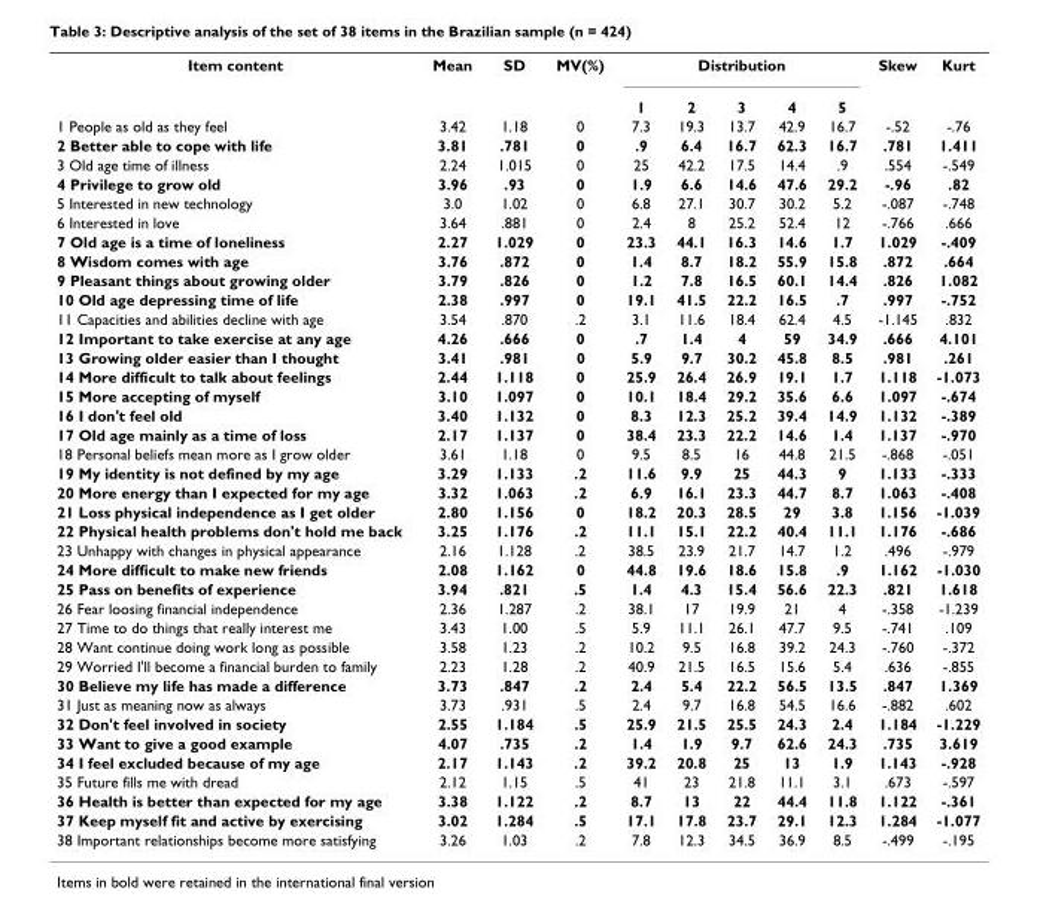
<table><tbody><tr><td rowspan="2">Item content</td><td>Mean</td><td>SD</td><td>MV(%)</td><td colspan="5">Distribution</td><td>Skew</td><td>Kurt</td></tr><tr><td></td><td></td><td></td><td>1</td><td>2</td><td>3</td><td>4</td><td>5</td><td></td><td></td></tr><tr><td>1 People as old as they feel</td><td>3.42</td><td>1.18</td><td>0</td><td>7.3</td><td>19.3</td><td>13.7</td><td>42.9</td><td>16.7</td><td>-.52</td><td>-.76</td></tr><tr><td>2 Better able to cope with life</td><td>3.81</td><td>.781</td><td>0</td><td>.9</td><td>6.4</td><td>16.7</td><td>62.3</td><td>16.7</td><td>.781</td><td>1.411</td></tr><tr><td>3 Old age time of illness</td><td>2.24</td><td>1.015</td><td>0</td><td>25</td><td>42.2</td><td>17.5</td><td>14.4</td><td>.9</td><td>.554</td><td>-.549</td></tr><tr><td>4 Privilege to grow old</td><td>3.96</td><td>.93</td><td>0</td><td>1.9</td><td>6.6</td><td>14.6</td><td>47.6</td><td>29.2</td><td>-.96</td><td>.82</td></tr><tr><td>5 Interested in new technology</td><td>3.0</td><td>1.02</td><td>0</td><td>6.8</td><td>27.1</td><td>30.7</td><td>30.2</td><td>5.2</td><td>-.087</td><td>-.748</td></tr><tr><td>6 Interested in love</td><td>3.64</td><td>.881</td><td>0</td><td>2.4</td><td>8</td><td>25.2</td><td>52.4</td><td>12</td><td>-.766</td><td>.666</td></tr><tr><td>7 Old age is a time of loneliness</td><td>2.27</td><td>1.029</td><td>0</td><td>23.3</td><td>44.1</td><td>16.3</td><td>14.6</td><td>1.7</td><td>1.029</td><td>-.409</td></tr><tr><td>8 Wisdom comes with age</td><td>3.76</td><td>.872</td><td>0</td><td>1.4</td><td>8.7</td><td>18.2</td><td>55.9</td><td>15.8</td><td>.872</td><td>.664</td></tr><tr><td>9 Pleasant things about growing older</td><td>3.79</td><td>.826</td><td>0</td><td>1.2</td><td>7.8</td><td>16.5</td><td>60.1</td><td>14.4</td><td>.826</td><td>1.082</td></tr><tr><td>10 Old age depressing time of life</td><td>2.38</td><td>.997</td><td>0</td><td>19.1</td><td>41.5</td><td>22.2</td><td>16.5</td><td>.7</td><td>.997</td><td>-.752</td></tr><tr><td>11 Capacities and abilities decline with age</td><td>3.54</td><td>.870</td><td>.2</td><td>3.1</td><td>11.6</td><td>18.4</td><td>62.4</td><td>4.5</td><td>-1.145</td><td>.832</td></tr><tr><td>12 Important to take exercise at any age</td><td>4.26</td><td>.666</td><td>0</td><td>.7</td><td>1.4</td><td>4</td><td>59</td><td>34.9</td><td>.666</td><td>4.101</td></tr><tr><td>13 Growing older easier than I thought</td><td>3.41</td><td>.981</td><td>0</td><td>5.9</td><td>9.7</td><td>30.2</td><td>45.8</td><td>8.5</td><td>.981</td><td>.261</td></tr><tr><td>14 More difficult to talk about feelings</td><td>2.44</td><td>1.118</td><td>0</td><td>25.9</td><td>26.4</td><td>26.9</td><td>19.1</td><td>1.7</td><td>1.118</td><td>-1.073</td></tr><tr><td>15 More accepting of myself</td><td>3.10</td><td>1.097</td><td>0</td><td>10.1</td><td>18.4</td><td>29.2</td><td>35.6</td><td>6.6</td><td>1.097</td><td>-.674</td></tr><tr><td>16 I don&#x27;t feel old</td><td>3.40</td><td>1.132</td><td>0</td><td>8.3</td><td>12.3</td><td>25.2</td><td>39.4</td><td>14.9</td><td>1.132</td><td>-.389</td></tr><tr><td>17 Old age mainly as a time of loss</td><td>2.17</td><td>1.137</td><td>0</td><td>38.4</td><td>23.3</td><td>22.2</td><td>14.6</td><td>1.4</td><td>1.137</td><td>-.970</td></tr><tr><td>18 Personal beliefs mean more as I grow older</td><td>3.61</td><td>1.18</td><td>0</td><td>9.5</td><td>8.5</td><td>16</td><td>44.8</td><td>21.5</td><td>-.868</td><td>-.051</td></tr><tr><td>19 My identity is not defined by my age</td><td>3.29</td><td>1.133</td><td>.2</td><td>11.6</td><td>9.9</td><td>25</td><td>44.3</td><td>9</td><td>1.133</td><td>-.333</td></tr><tr><td>20 More energy than I expected for my age</td><td>3.32</td><td>1.063</td><td>.2</td><td>6.9</td><td>16.1</td><td>23.3</td><td>44.7</td><td>8.7</td><td>1.063</td><td>-.408</td></tr><tr><td>21 Loss physical independence as I get older</td><td>2.80</td><td>1.156</td><td>0</td><td>18.2</td><td>20.3</td><td>28.5</td><td>29</td><td>3.8</td><td>1.156</td><td>-1.039</td></tr><tr><td>22 Physical health problems don&#x27;t hold me back</td><td>3.25</td><td>1.176</td><td>.2</td><td>11.1</td><td>15.1</td><td>22.2</td><td>40.4</td><td>11.1</td><td>1.176</td><td>-.686</td></tr><tr><td>23 Unhappy with changes in physical appearance</td><td>2.16</td><td>1.128</td><td>.2</td><td>38.5</td><td>23.9</td><td>21.7</td><td>14.7</td><td>1.2</td><td>.496</td><td>-.979</td></tr><tr><td>24 More difficult to make new friends</td><td>2.08</td><td>1.162</td><td>0</td><td>44.8</td><td>19.6</td><td>18.6</td><td>15.8</td><td>.9</td><td>1.162</td><td>-1.030</td></tr><tr><td>25 Pass on benefits of experience</td><td>3.94</td><td>.821</td><td>.5</td><td>1.4</td><td>4.3</td><td>15.4</td><td>56.6</td><td>22.3</td><td>.821</td><td>1.618</td></tr><tr><td>26 Fear loosing financial independence</td><td>2.36</td><td>1.287</td><td>.2</td><td>38.1</td><td>17</td><td>19.9</td><td>21</td><td>4</td><td>-.358</td><td>-1.239</td></tr><tr><td>27 Time to do things that really interest me</td><td>3.43</td><td>1.00</td><td>.5</td><td>5.9</td><td>11.1</td><td>26.1</td><td>47.7</td><td>9.5</td><td>-.741</td><td>.109</td></tr><tr><td>28 Want continue doing work long as possible</td><td>3.58</td><td>1.23</td><td>.2</td><td>10.2</td><td>9.5</td><td>16.8</td><td>39.2</td><td>24.3</td><td>-.760</td><td>-.372</td></tr><tr><td>29 Worried I&#x27;ll become a financial burden to family</td><td>2.23</td><td>1.28</td><td>.2</td><td>40.9</td><td>21.5</td><td>16.5</td><td>15.6</td><td>5.4</td><td>.636</td><td>-.855</td></tr><tr><td>30 Believe my life has made a difference</td><td>3.73</td><td>.847</td><td>.2</td><td>2.4</td><td>5.4</td><td>22.2</td><td>56.5</td><td>13.5</td><td>.847</td><td>1.369</td></tr><tr><td>31 Just as meaning now as always</td><td>3.73</td><td>.931</td><td>.5</td><td>2.4</td><td>9.7</td><td>16.8</td><td>54.5</td><td>16.6</td><td>-.882</td><td>.602</td></tr><tr><td>32 Don&#x27;t feel involved in society</td><td>2.55</td><td>1.184</td><td>.5</td><td>25.9</td><td>21.5</td><td>25.5</td><td>24.3</td><td>2.4</td><td>1.184</td><td>-1.229</td></tr><tr><td>33 Want to give a good example</td><td>4.07</td><td>.735</td><td>.2</td><td>1.4</td><td>1.9</td><td>9.7</td><td>62.6</td><td>24.3</td><td>.735</td><td>3.619</td></tr><tr><td>34 I feel excluded because of my age</td><td>2.17</td><td>1.143</td><td>.2</td><td>39.2</td><td>20.8</td><td>25</td><td>13</td><td>1.9</td><td>1.143</td><td>-.928</td></tr><tr><td>35 Future fills me with dread</td><td>2.12</td><td>1.15</td><td>.5</td><td>41</td><td>23</td><td>21.8</td><td>11.1</td><td>3.1</td><td>.673</td><td>-.597</td></tr><tr><td>36 Health is better than expected for my age</td><td>3.38</td><td>1.122</td><td>.2</td><td>8.7</td><td>13</td><td>22</td><td>44.4</td><td>11.8</td><td>1.122</td><td>-.361</td></tr><tr><td>37 Keep myself fit and active by exercising</td><td>3.02</td><td>1.284</td><td>.5</td><td>17.1</td><td>17.8</td><td>23.7</td><td>29.1</td><td>12.3</td><td>1.284</td><td>-1.077</td></tr><tr><td>38 Important relationships become more satisfying</td><td>3.26</td><td>1.03</td><td>.2</td><td>7.8</td><td>12.3</td><td>34.5</td><td>36.9</td><td>8.5</td><td>-.499</td><td>-.195</td></tr></tbody></table>